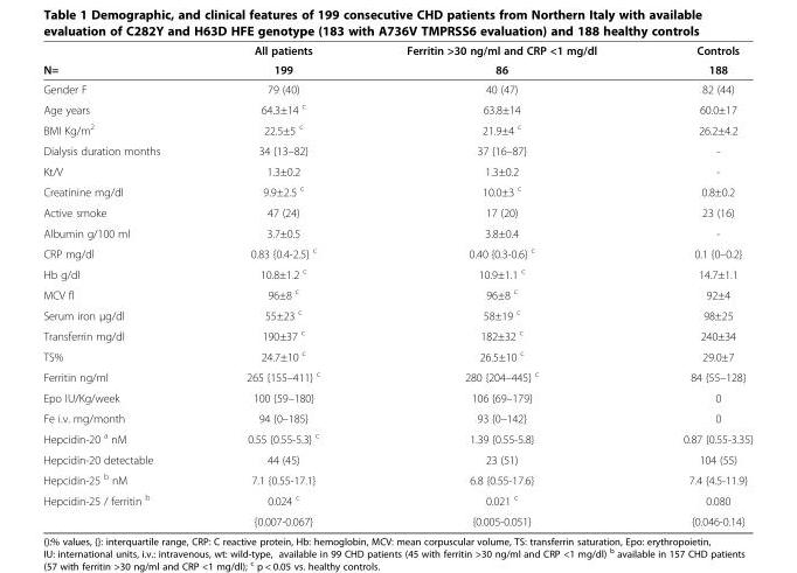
<table><thead><tr><td rowspan="2">N=</td><td rowspan="2">All patients 199</td><td rowspan="2">Ferritin &gt;30 ng/ml and CRP &lt;1 mg/dl 86</td><td rowspan="2">Controls 188</td></tr><tr></tr></thead><tbody><tr><td>Gender F</td><td>79 (40)</td><td>40 (47)</td><td>82 (44)</td></tr><tr><td>Age years</td><td>64.3±14 <sup>c</sup></td><td>63.8±14</td><td>60.0±17</td></tr><tr><td>BMI Kg/m<sup>2</sup></td><td>22.5±5 <sup>c</sup></td><td>21.9±4 <sup>c</sup></td><td>26.2±4.2</td></tr><tr><td>Dialysis duration months</td><td>34 {13–82}</td><td>37 {16–87}</td><td>-</td></tr><tr><td>Kt/V</td><td>1.3±0.2</td><td>1.3±0.2</td><td>-</td></tr><tr><td>Creatinine mg/dl</td><td>9.9±2.5 <sup>c</sup></td><td>10.0±3 <sup>c</sup></td><td>0.8±0.2</td></tr><tr><td>Active smoke</td><td>47 (24)</td><td>17 (20)</td><td>23 (16)</td></tr><tr><td>Albumin g/100 ml</td><td>3.7±0.5</td><td>3.8±0.4</td><td>-</td></tr><tr><td>CRP mg/dl</td><td>0.83 {0.4-2.5} <sup>c</sup></td><td>0.40 {0.3-0.6} <sup>c</sup></td><td>0.1 {0–0.2}</td></tr><tr><td>Hb g/dl</td><td>10.8±1.2 <sup>c</sup></td><td>10.9±1.1 <sup>c</sup></td><td>14.7±1.1</td></tr><tr><td>MCV fl</td><td>96±8 <sup>c</sup></td><td>96±8 <sup>c</sup></td><td>92±4</td></tr><tr><td>Serum iron μg/dl</td><td>55±23 <sup>c</sup></td><td>58±19 <sup>c</sup></td><td>98±25</td></tr><tr><td>Transferrin mg/dl</td><td>190±37 <sup>c</sup></td><td>182±32 <sup>c</sup></td><td>240±34</td></tr><tr><td>TS%</td><td>24.7±10 <sup>c</sup></td><td>26.5±10 <sup>c</sup></td><td>29.0±7</td></tr><tr><td>Ferritin ng/ml</td><td>265 {155–411} <sup>c</sup></td><td>280 {204–445} <sup>c</sup></td><td>84 {55–128}</td></tr><tr><td>Epo IU/Kg/week</td><td>100 {59–180}</td><td>106 {69–179}</td><td>0</td></tr><tr><td>Fe i.v. mg/month</td><td>94 {0–185}</td><td>93 {0–142}</td><td>0</td></tr><tr><td>Hepcidin-20 <sup>a</sup> nM</td><td>0.55 {0.55-5.3} <sup>c</sup></td><td>1.39 {0.55-5.8}</td><td>0.87 {0.55-3.35}</td></tr><tr><td>Hepcidin-20 detectable</td><td>44 (45)</td><td>23 (51)</td><td>104 (55)</td></tr><tr><td>Hepcidin-25 <sup>b</sup> nM</td><td>7.1 {0.55-17.1}</td><td>6.8 {0.55-17.6}</td><td>7.4 {4.5-11.9}</td></tr><tr><td rowspan="2">Hepcidin-25 / ferritin <sup>b</sup></td><td>0.024 <sup>c</sup></td><td>0.021 <sup>c</sup></td><td>0.080</td></tr><tr><td>{0.007-0.067}</td><td>{0.005-0.051}</td><td>{0.046-0.14}</td></tr></tbody></table>